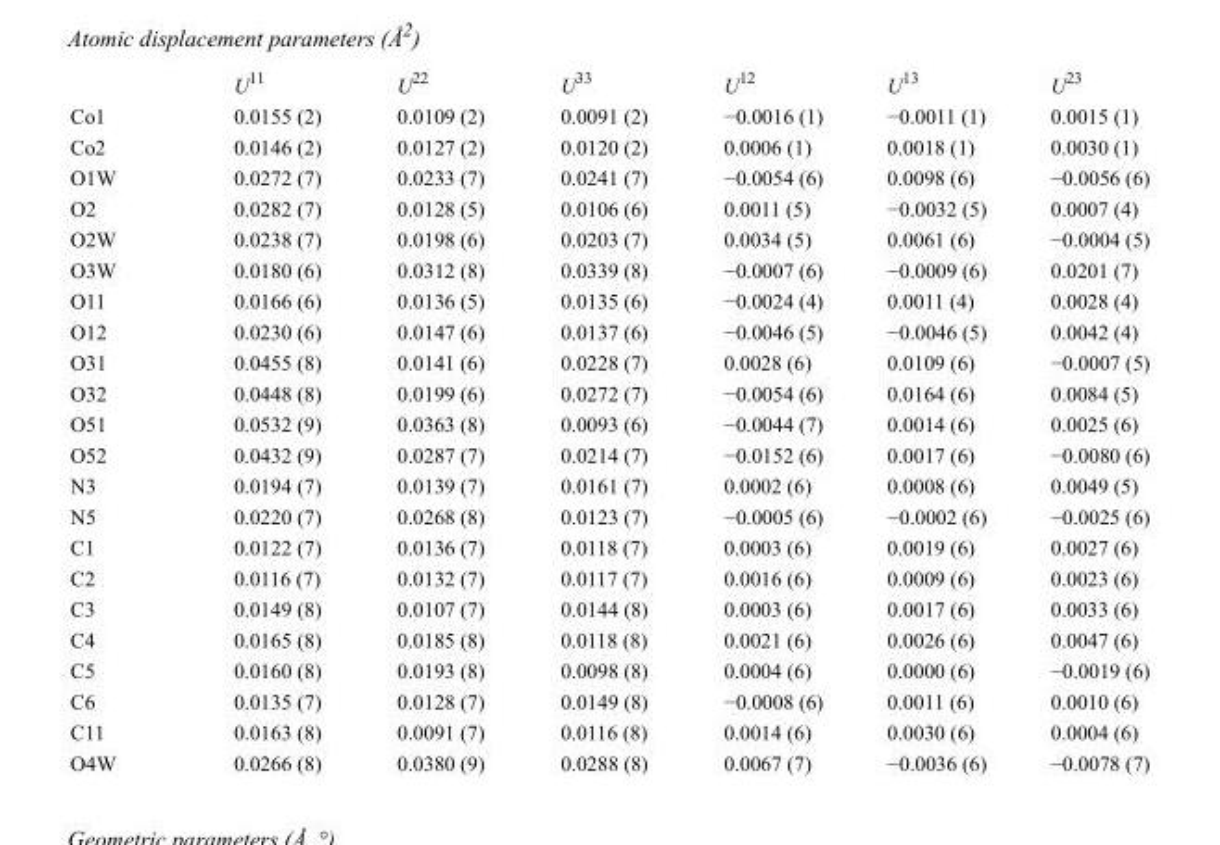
<table><thead><tr><td></td><td>U<sup>11</sup></td><td>U<sup>22</sup></td><td>U<sup>33</sup></td><td>U<sup>12</sup></td><td>U<sup>13</sup></td><td>U<sup>23</sup></td></tr></thead><tbody><tr><td>Co1</td><td>0.0155 (2)</td><td>0.0109 (2)</td><td>0.0091 (2)</td><td>−0.0016 (1)</td><td>−0.0011 (1)</td><td>0.0015 (1)</td></tr><tr><td>Co2</td><td>0.0146 (2)</td><td>0.0127 (2)</td><td>0.0120 (2)</td><td>0.0006 (1)</td><td>0.0018 (1)</td><td>0.0030 (1)</td></tr><tr><td>O1W</td><td>0.0272 (7)</td><td>0.0233 (7)</td><td>0.0241 (7)</td><td>−0.0054 (6)</td><td>0.0098 (6)</td><td>−0.0056 (6)</td></tr><tr><td>O2</td><td>0.0282 (7)</td><td>0.0128 (5)</td><td>0.0106 (6)</td><td>0.0011 (5)</td><td>−0.0032 (5)</td><td>0.0007 (4)</td></tr><tr><td>O2W</td><td>0.0238 (7)</td><td>0.0198 (6)</td><td>0.0203 (7)</td><td>0.0034 (5)</td><td>0.0061 (6)</td><td>−0.0004 (5)</td></tr><tr><td>O3W</td><td>0.0180 (6)</td><td>0.0312 (8)</td><td>0.0339 (8)</td><td>−0.0007 (6)</td><td>−0.0009 (6)</td><td>0.0201 (7)</td></tr><tr><td>O11</td><td>0.0166 (6)</td><td>0.0136 (5)</td><td>0.0135 (6)</td><td>−0.0024 (4)</td><td>0.0011 (4)</td><td>0.0028 (4)</td></tr><tr><td>O12</td><td>0.0230 (6)</td><td>0.0147 (6)</td><td>0.0137 (6)</td><td>−0.0046 (5)</td><td>−0.0046 (5)</td><td>0.0042 (4)</td></tr><tr><td>O31</td><td>0.0455 (8)</td><td>0.0141 (6)</td><td>0.0228 (7)</td><td>0.0028 (6)</td><td>0.0109 (6)</td><td>−0.0007 (5)</td></tr><tr><td>O32</td><td>0.0448 (8)</td><td>0.0199 (6)</td><td>0.0272 (7)</td><td>−0.0054 (6)</td><td>0.0164 (6)</td><td>0.0084 (5)</td></tr><tr><td>O51</td><td>0.0532 (9)</td><td>0.0363 (8)</td><td>0.0093 (6)</td><td>−0.0044 (7)</td><td>0.0014 (6)</td><td>0.0025 (6)</td></tr><tr><td>O52</td><td>0.0432 (9)</td><td>0.0287 (7)</td><td>0.0214 (7)</td><td>−0.0152 (6)</td><td>0.0017 (6)</td><td>−0.0080 (6)</td></tr><tr><td>N3</td><td>0.0194 (7)</td><td>0.0139 (7)</td><td>0.0161 (7)</td><td>0.0002 (6)</td><td>0.0008 (6)</td><td>0.0049 (5)</td></tr><tr><td>N5</td><td>0.0220 (7)</td><td>0.0268 (8)</td><td>0.0123 (7)</td><td>−0.0005 (6)</td><td>−0.0002 (6)</td><td>−0.0025 (6)</td></tr><tr><td>C1</td><td>0.0122 (7)</td><td>0.0136 (7)</td><td>0.0118 (7)</td><td>0.0003 (6)</td><td>0.0019 (6)</td><td>0.0027 (6)</td></tr><tr><td>C2</td><td>0.0116 (7)</td><td>0.0132 (7)</td><td>0.0117 (7)</td><td>0.0016 (6)</td><td>0.0009 (6)</td><td>0.0023 (6)</td></tr><tr><td>C3</td><td>0.0149 (8)</td><td>0.0107 (7)</td><td>0.0144 (8)</td><td>0.0003 (6)</td><td>0.0017 (6)</td><td>0.0033 (6)</td></tr><tr><td>C4</td><td>0.0165 (8)</td><td>0.0185 (8)</td><td>0.0118 (8)</td><td>0.0021 (6)</td><td>0.0026 (6)</td><td>0.0047 (6)</td></tr><tr><td>C5</td><td>0.0160 (8)</td><td>0.0193 (8)</td><td>0.0098 (8)</td><td>0.0004 (6)</td><td>0.0000 (6)</td><td>−0.0019 (6)</td></tr><tr><td>C6</td><td>0.0135 (7)</td><td>0.0128 (7)</td><td>0.0149 (8)</td><td>−0.0008 (6)</td><td>0.0011 (6)</td><td>0.0010 (6)</td></tr><tr><td>C11</td><td>0.0163 (8)</td><td>0.0091 (7)</td><td>0.0116 (8)</td><td>0.0014 (6)</td><td>0.0030 (6)</td><td>0.0004 (6)</td></tr><tr><td>O4W</td><td>0.0266 (8)</td><td>0.0380 (9)</td><td>0.0288 (8)</td><td>0.0067 (7)</td><td>−0.0036 (6)</td><td>−0.0078 (7)</td></tr></tbody></table>